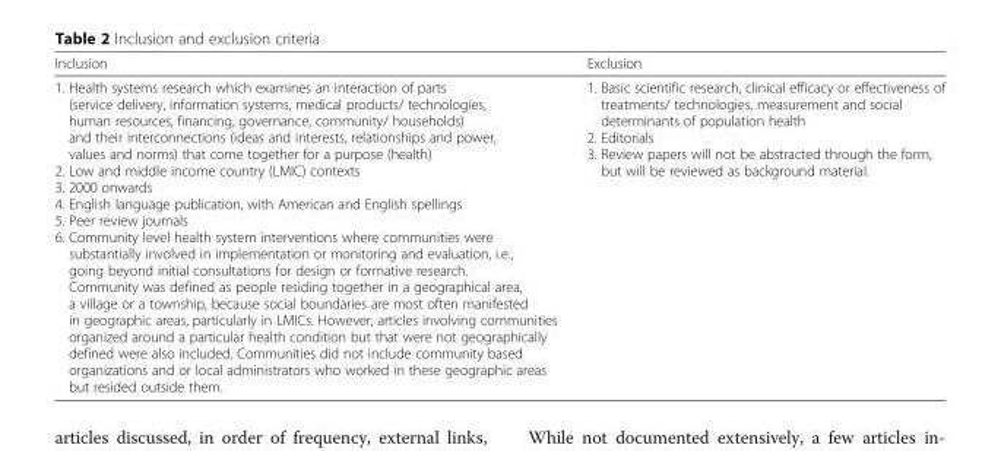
<table><thead><tr><td>Inclusion</td><td>Exclusion</td></tr></thead><tbody><tr><td>1. Health systems research which examines an interaction of parts (service delivery, information systems, medical products/ technologies, human resources, financing, governance, community/ households) and their interconnections (ideas and interests, relationships and power, values and norms) that come together for a purpose (health) 2. Low and middle income country (LMIC) contexts 3. 2000 onwards 4. English language publication, with American and English spellings 5. Peer review journals 6. Community level health system interventions where communities were substantially involved in implementation or monitoring and evaluation, i.e., going beyond initial consultations for design or formative research. Community was defined as people residing together in a geographical area, a village or a township, because social boundaries are most often manifested in geographic areas, particularly in LMICs. However, articles involving communities organized around a particular health condition but that were not geographically defined were also included. Communities did not include community based organizations and or local administrators who worked in these geographic areas but resided outside them.</td><td>1. Basic scientific research, clinical efficacy or effectiveness of treatments/ technologies, measurement and social determinants of population health 2. Editorials 3. Review papers will not be abstracted through the form, but will be reviewed as background material.</td></tr></tbody></table>